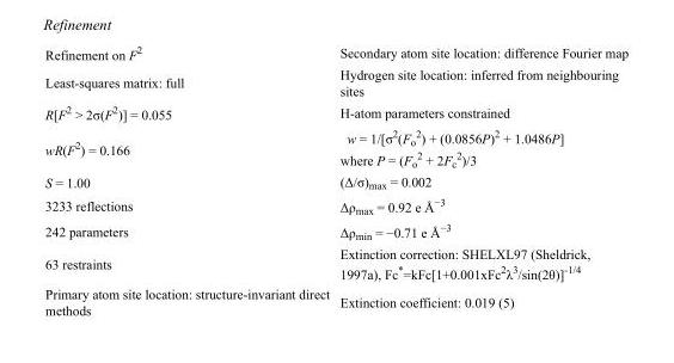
<table><tbody><tr><td>Refinement on F<sup>2</sup></td><td>Secondary atom site location: difference Fourier map</td></tr><tr><td>Least-squares matrix: full</td><td>Hydrogen site location: inferred from neighbouring sites</td></tr><tr><td>R[F<sup>2</sup> &gt; 2σ(F<sup>2</sup>)] = 0.055</td><td>H-atom parameters constrained</td></tr><tr><td>wR(F<sup>2</sup>) = 0.166</td><td>w = 1/[σ<sup>2</sup>(F<sub>o</sub> <sup>2</sup>) + (0.0856P)<sup>2</sup> + 1.0486P] where P = (F<sub>o</sub> <sup>2</sup> + 2F<sub>c</sub> <sup>2</sup>)/3</td></tr><tr><td>S = 1.00</td><td>(Δ/σ)<sub>max</sub> = 0.002</td></tr><tr><td>3233 reflections</td><td>Δρ<sub>max</sub> = 0.92 e Å<sup>−3</sup></td></tr><tr><td>242 parameters</td><td>Δρ<sub>min</sub> = −0.71 e Å<sup>−3</sup></td></tr><tr><td>63 restraints</td><td>Extinction correction: SHELXL97 (Sheldrick, 1997a), Fc*=kFc[1+0.001xFc<sup>2</sup>λ<sup>3</sup>/sin(2θ)]<sup>-1/4</sup></td></tr><tr><td>Primary atom site location: structure-invariant direct methods</td><td>Extinction coefficient: 0.019 (5)</td></tr></tbody></table>